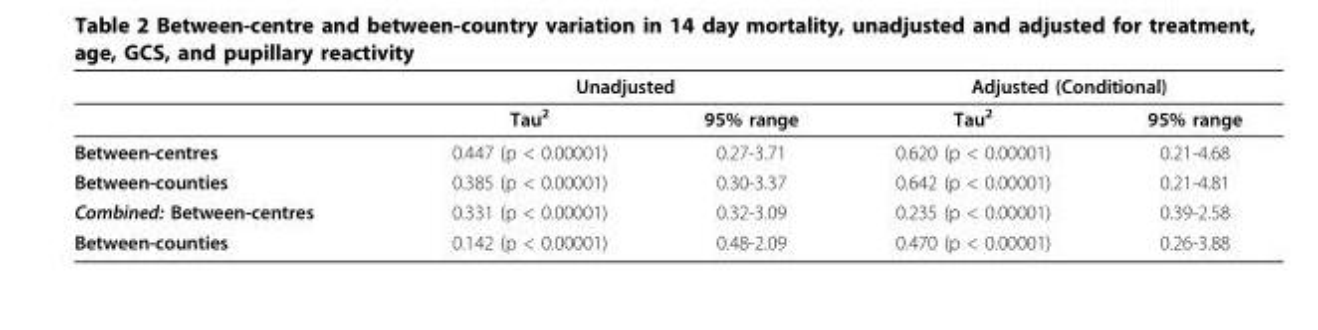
<table><thead><tr><td rowspan="2"></td><td colspan="2">Unadjusted</td><td colspan="2">Adjusted (Conditional)</td></tr><tr><td>Tau<sup>2</sup></td><td>95% range</td><td>Tau<sup>2</sup></td><td>95% range</td></tr></thead><tbody><tr><td>Between-centres</td><td>0.447 (p &lt; 0.00001)</td><td>0.27-3.71</td><td>0.620 (p &lt; 0.00001)</td><td>0.21-4.68</td></tr><tr><td>Between-counties</td><td>0.385 (p &lt; 0.00001)</td><td>0.30-3.37</td><td>0.642 (p &lt; 0.00001)</td><td>0.21-4.81</td></tr><tr><td>Combined: Between-centres</td><td>0.331 (p &lt; 0.00001)</td><td>0.32-3.09</td><td>0.235 (p &lt; 0.00001)</td><td>0.39-2.58</td></tr><tr><td>Between-counties</td><td>0.142 (p &lt; 0.00001)</td><td>0.48-2.09</td><td>0.470 (p &lt; 0.00001)</td><td>0.26-3.88</td></tr></tbody></table>